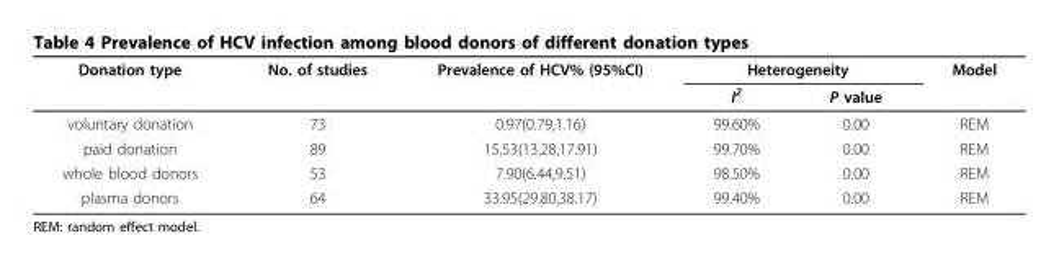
<table><thead><tr><td rowspan="2">Donation type</td><td rowspan="2">No. of studies</td><td rowspan="2">Prevalence of HCV% (95%CI)</td><td colspan="2">Heterogeneity</td><td rowspan="2">Model</td></tr><tr><td>I<sup>2</sup></td><td>P value</td></tr></thead><tbody><tr><td>voluntary donation</td><td>73</td><td>0.97(0.79,1.16)</td><td>99.60%</td><td>0.00</td><td>REM</td></tr><tr><td>paid donation</td><td>89</td><td>15.53(13.28,17.91)</td><td>99.70%</td><td>0.00</td><td>REM</td></tr><tr><td>whole blood donors</td><td>53</td><td>7.90(6.44,9.51)</td><td>98.50%</td><td>0.00</td><td>REM</td></tr><tr><td>plasma donors</td><td>64</td><td>33.95(29.80,38.17)</td><td>99.40%</td><td>0.00</td><td>REM</td></tr></tbody></table>